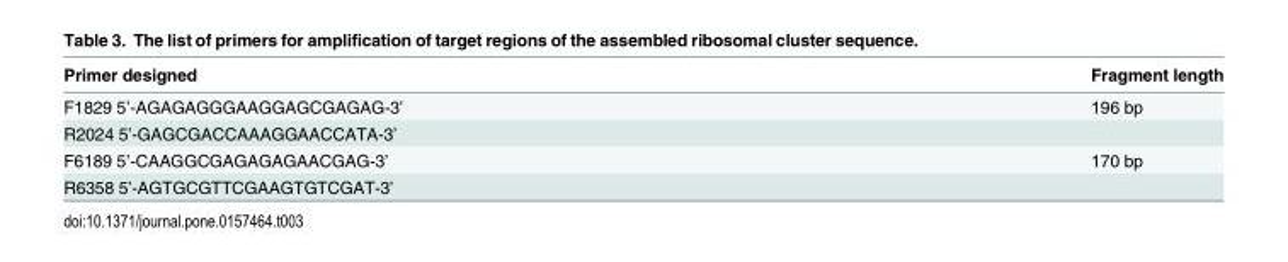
<table><thead><tr><td>Primer designed</td><td>Fragment length</td></tr></thead><tbody><tr><td>F1829 5’-AGAGAGGGAAGGAGCGAGAG-3’</td><td>196 bp</td></tr><tr><td colspan="2">R2024 5’-GAGCGACCAAAGGAACCATA-3’</td></tr><tr><td>F6189 5’-CAAGGCGAGAGAGAACGAG-3’</td><td>170 bp</td></tr><tr><td>R6358 5’-AGTGCGTTCGAAGTGTCGAT-3’</td><td></td></tr></tbody></table>